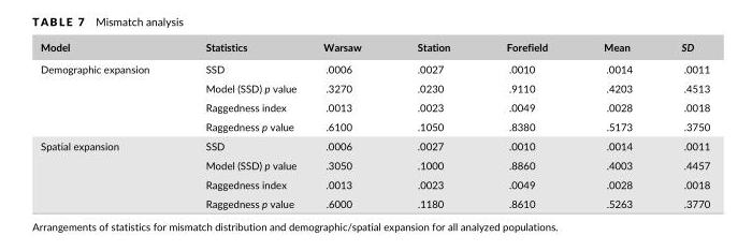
<table><thead><tr><td>Model</td><td>Statistics</td><td>Warsaw</td><td>Station</td><td>Forefield</td><td>Mean</td><td>SD</td></tr></thead><tbody><tr><td rowspan="4">Demographic expansion</td><td>SSD</td><td>.0006</td><td>.0027</td><td>.0010</td><td>.0014</td><td>.0011</td></tr><tr><td>Model (SSD) p value</td><td>.3270</td><td>.0230</td><td>.9110</td><td>.4203</td><td>.4513</td></tr><tr><td>Raggedness index</td><td>.0013</td><td>.0023</td><td>.0049</td><td>.0028</td><td>.0018</td></tr><tr><td>Raggedness p value</td><td>.6100</td><td>.1050</td><td>.8380</td><td>.5173</td><td>.3750</td></tr><tr><td rowspan="4">Spatial expansion</td><td>SSD</td><td>.0006</td><td>.0027</td><td>.0010</td><td>.0014</td><td>.0011</td></tr><tr><td>Model (SSD) p value</td><td>.3050</td><td>.1000</td><td>.8860</td><td>.4003</td><td>.4457</td></tr><tr><td>Raggedness index</td><td>.0013</td><td>.0023</td><td>.0049</td><td>.0028</td><td>.0018</td></tr><tr><td>Raggedness p value</td><td>.6000</td><td>.1180</td><td>.8610</td><td>.5263</td><td>.3770</td></tr></tbody></table>